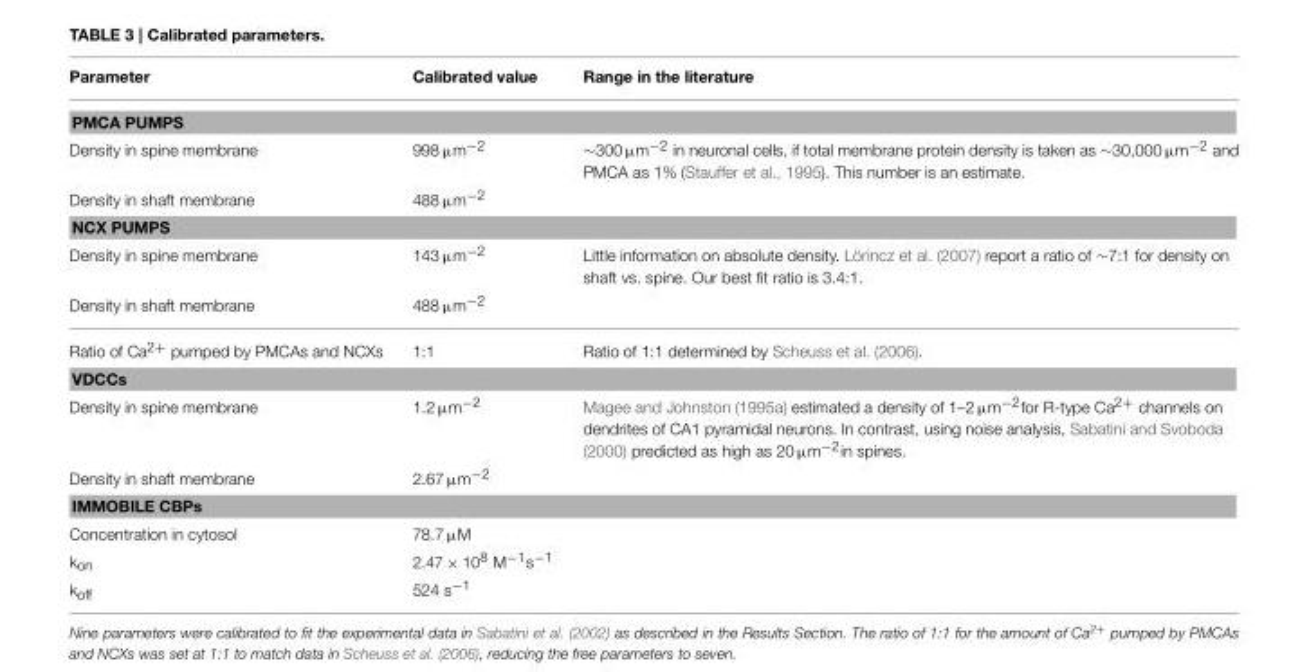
<table><thead><tr><td>Parameter</td><td>Calibrated value</td><td>Range in the literature</td></tr></thead><tbody><tr><td colspan="3">PMCA PUMPS</td></tr><tr><td>Density in spine membrane</td><td>998 µm<sup>−2</sup></td><td>∼300 µm−2 in neuronal cells, if total membrane protein density is taken as ∼30,000 µm−2 and PMCA as 1% (Stauffer et al., 1995). This number is an estimate.</td></tr><tr><td>Density in shaft membrane</td><td>488 µm<sup>−2</sup></td><td></td></tr><tr><td colspan="3">NCX PUMPS</td></tr><tr><td>Density in spine membrane</td><td>143 µm<sup>−2</sup></td><td>Little information on absolute density. Lörincz et al. (2007) report a ratio of ∼7:1 for density on shaft vs. spine. Our best fit ratio is 3.4:1.</td></tr><tr><td>Density in shaft membrane</td><td>488 µm<sup>−2</sup></td><td></td></tr><tr><td>Ratio of Ca<sup>2+</sup> pumped by PMCAs and NCXs</td><td>1:1</td><td>Ratio of 1:1 determined by Scheuss et al. (2006).</td></tr><tr><td colspan="3">VDCCs</td></tr><tr><td>Density in spine membrane</td><td>1.2 µm<sup>−2</sup></td><td>Magee and Johnston (1995a) estimated a density of 1–2 µm<sup>−2</sup>for R-type Ca<sup>2+</sup> channels on dendrites of CA1 pyramidal neurons. In contrast, using noise analysis, Sabatini and Svoboda (2000) predicted as high as 20 µm<sup>−2</sup>in spines.</td></tr><tr><td>Density in shaft membrane</td><td>2.67 µm<sup>−2</sup></td><td></td></tr><tr><td colspan="3">IMMOBILE CBPs</td></tr><tr><td>Concentration in cytosol</td><td>78.7 µM</td><td></td></tr><tr><td>k<sub>on</sub></td><td>2.47 × 10<sup>8</sup> M<sup>−1</sup>s<sup>−1</sup></td><td></td></tr><tr><td>k<sub>off</sub></td><td>524 s<sup>−1</sup></td><td></td></tr></tbody></table>